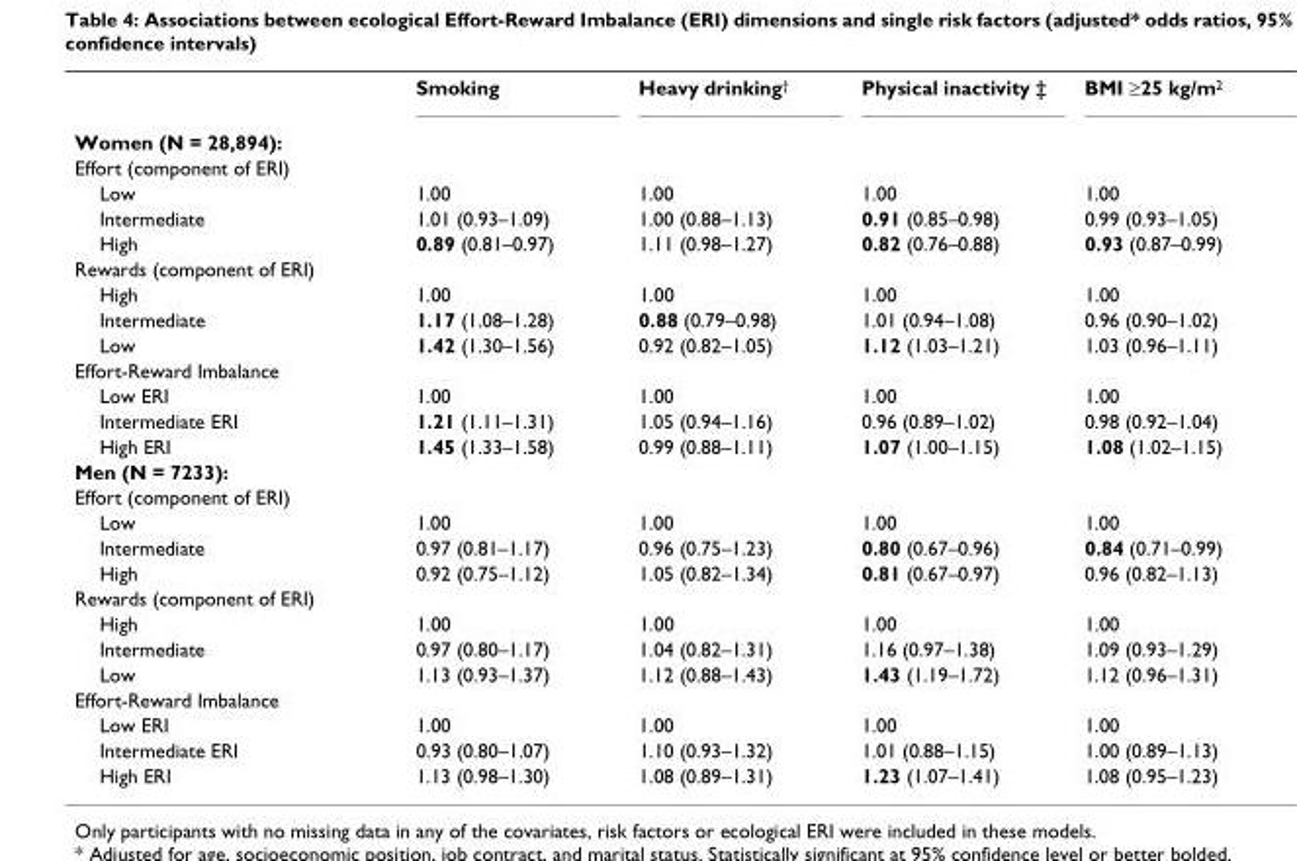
<table><thead><tr><td></td><td>Smoking</td><td>Heavy drinking†</td><td>Physical inactivity ‡</td><td>BMI ≥25 kg/m2</td></tr></thead><tbody><tr><td colspan="5">Women (N = 28,894):</td></tr><tr><td colspan="5">Effort (component of ERI)</td></tr><tr><td>Low</td><td>1.00</td><td>1.00</td><td>1.00</td><td>1.00</td></tr><tr><td>Intermediate</td><td>1.01 (0.93–1.09)</td><td>1.00 (0.88–1.13)</td><td>0.91 (0.85–0.98)</td><td>0.99 (0.93–1.05)</td></tr><tr><td>High</td><td>0.89 (0.81–0.97)</td><td>1.11 (0.98–1.27)</td><td>0.82 (0.76–0.88)</td><td>0.93 (0.87–0.99)</td></tr><tr><td colspan="5">Rewards (component of ERI)</td></tr><tr><td>High</td><td>1.00</td><td>1.00</td><td>1.00</td><td>1.00</td></tr><tr><td>Intermediate</td><td>1.17 (1.08–1.28)</td><td>0.88 (0.79–0.98)</td><td>1.01 (0.94–1.08)</td><td>0.96 (0.90–1.02)</td></tr><tr><td>Low</td><td>1.42 (1.30–1.56)</td><td>0.92 (0.82–1.05)</td><td>1.12 (1.03–1.21)</td><td>1.03 (0.96–1.11)</td></tr><tr><td colspan="5">Effort-Reward Imbalance</td></tr><tr><td>Low ERI</td><td>1.00</td><td>1.00</td><td>1.00</td><td>1.00</td></tr><tr><td>Intermediate ERI</td><td>1.21 (1.11–1.31)</td><td>1.05 (0.94–1.16)</td><td>0.96 (0.89–1.02)</td><td>0.98 (0.92–1.04)</td></tr><tr><td>High ERI</td><td>1.45 (1.33–1.58)</td><td>0.99 (0.88–1.11)</td><td>1.07 (1.00–1.15)</td><td>1.08 (1.02–1.15)</td></tr><tr><td colspan="5">Men (N = 7233):</td></tr><tr><td colspan="5">Effort (component of ERI)</td></tr><tr><td>Low</td><td>1.00</td><td>1.00</td><td>1.00</td><td>1.00</td></tr><tr><td>Intermediate</td><td>0.97 (0.81–1.17)</td><td>0.96 (0.75–1.23)</td><td>0.80 (0.67–0.96)</td><td>0.84 (0.71–0.99)</td></tr><tr><td>High</td><td>0.92 (0.75–1.12)</td><td>1.05 (0.82–1.34)</td><td>0.81 (0.67–0.97)</td><td>0.96 (0.82–1.13)</td></tr><tr><td colspan="5">Rewards (component of ERI)</td></tr><tr><td>High</td><td>1.00</td><td>1.00</td><td>1.00</td><td>1.00</td></tr><tr><td>Intermediate</td><td>0.97 (0.80–1.17)</td><td>1.04 (0.82–1.31)</td><td>1.16 (0.97–1.38)</td><td>1.09 (0.93–1.29)</td></tr><tr><td>Low</td><td>1.13 (0.93–1.37)</td><td>1.12 (0.88–1.43)</td><td>1.43 (1.19–1.72)</td><td>1.12 (0.96–1.31)</td></tr><tr><td colspan="5">Effort-Reward Imbalance</td></tr><tr><td>Low ERI</td><td>1.00</td><td>1.00</td><td>1.00</td><td>1.00</td></tr><tr><td>Intermediate ERI</td><td>0.93 (0.80–1.07)</td><td>1.10 (0.93–1.32)</td><td>1.01 (0.88–1.15)</td><td>1.00 (0.89–1.13)</td></tr><tr><td>High ERI</td><td>1.13 (0.98–1.30)</td><td>1.08 (0.89–1.31)</td><td>1.23 (1.07–1.41)</td><td>1.08 (0.95–1.23)</td></tr></tbody></table>